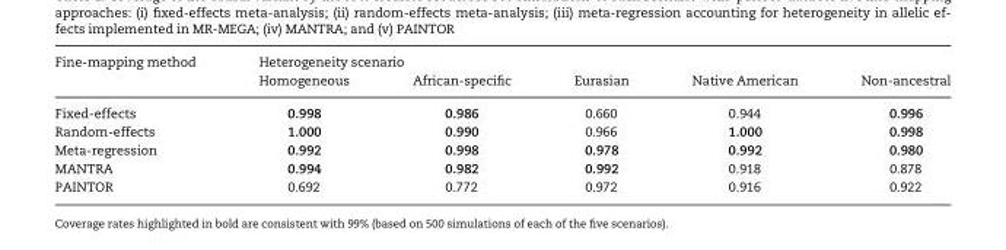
<table><thead><tr><td rowspan="2">Fine-mapping method</td><td colspan="5">Heterogeneity scenario</td></tr><tr><td>Homogeneous</td><td>African-specific</td><td>Eurasian</td><td>Native American</td><td>Non-ancestral</td></tr></thead><tbody><tr><td>Fixed-effects</td><td>0.998</td><td>0.986</td><td>0.660</td><td>0.944</td><td>0.996</td></tr><tr><td>Random-effects</td><td>1.000</td><td>0.990</td><td>0.966</td><td>1.000</td><td>0.998</td></tr><tr><td>Meta-regression</td><td>0.992</td><td>0.998</td><td>0.978</td><td>0.992</td><td>0.980</td></tr><tr><td>MANTRA</td><td>0.994</td><td>0.982</td><td>0.992</td><td>0.918</td><td>0.878</td></tr><tr><td>PAINTOR</td><td>0.692</td><td>0.772</td><td>0.972</td><td>0.916</td><td>0.922</td></tr></tbody></table>